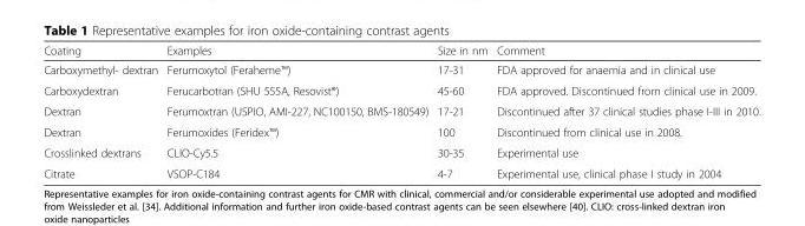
<table><thead><tr><td>Coating</td><td>Examples</td><td>Size in nm</td><td>Comment</td></tr></thead><tbody><tr><td>Carboxymethyl- dextran</td><td>Ferumoxytol (Feraheme™)</td><td>17-31</td><td>FDA approved for anaemia and in clinical use</td></tr><tr><td>Carboxydextran</td><td>Ferucarbotran (SHU 555A, Resovist®)</td><td>45-60</td><td>FDA approved. Discontinued from clinical use in 2009.</td></tr><tr><td>Dextran</td><td>Ferumoxtran (USPIO, AMI-227, NC100150, BMS-180549)</td><td>17-21</td><td>Discontinued after 37 clinical studies phase I-III in 2010.</td></tr><tr><td>Dextran</td><td>Ferumoxides (Feridex™)</td><td>100</td><td>Discontinued from clinical use in 2008.</td></tr><tr><td>Crosslinked dextrans</td><td>CLIO-Cy5.5</td><td>30-35</td><td>Experimental use</td></tr><tr><td>Citrate</td><td>VSOP-C184</td><td>4-7</td><td>Experimental use, clinical phase I study in 2004</td></tr></tbody></table>